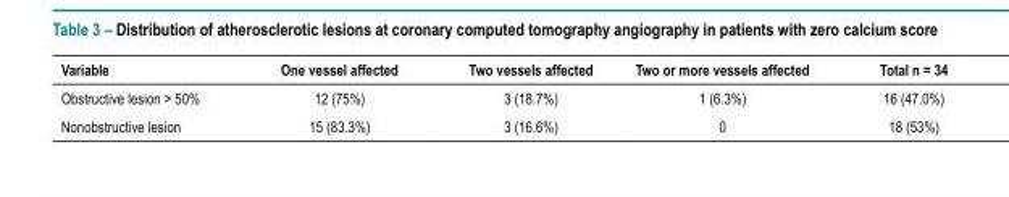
<table><thead><tr><td>Variable</td><td>One vessel affected</td><td>Two vessels affected</td><td>Two or more vessels affected</td><td>Total n = 34</td></tr></thead><tbody><tr><td>Obstructive lesion &gt; 50%</td><td>12 (75%)</td><td>3 (18.7%)</td><td>1 (6.3%)</td><td>16 (47.0%)</td></tr><tr><td>Nonobstructive lesion</td><td>15 (83.3%)</td><td>3 (16.6%)</td><td>0</td><td>18 (53%)</td></tr></tbody></table>